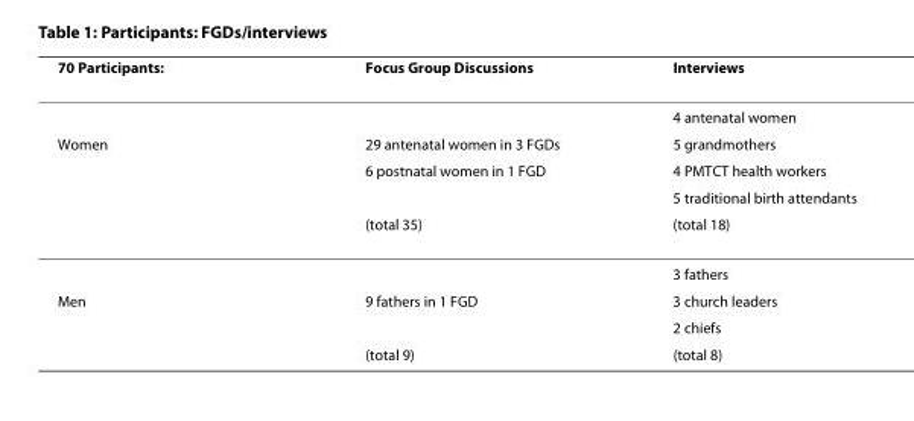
<table><thead><tr><td>70 Participants:</td><td>Focus Group Discussions</td><td>Interviews</td></tr></thead><tbody><tr><td></td><td></td><td>4 antenatal women</td></tr><tr><td rowspan="5">Women</td><td>29 antenatal women in 3 FGDs</td><td>5 grandmothers</td></tr><tr><td>6 postnatal women in 1 FGD</td><td>4 PMTCT health workers</td></tr><tr><td></td><td>5 traditional birth attendants</td></tr><tr><td>(total 35)</td><td>(total 18)</td></tr><tr><td></td><td>3 fathers</td></tr><tr><td rowspan="3">Men</td><td>9 fathers in 1 FGD</td><td>3 church leaders</td></tr><tr><td></td><td>2 chiefs</td></tr><tr><td>(total 9)</td><td>(total 8)</td></tr></tbody></table>